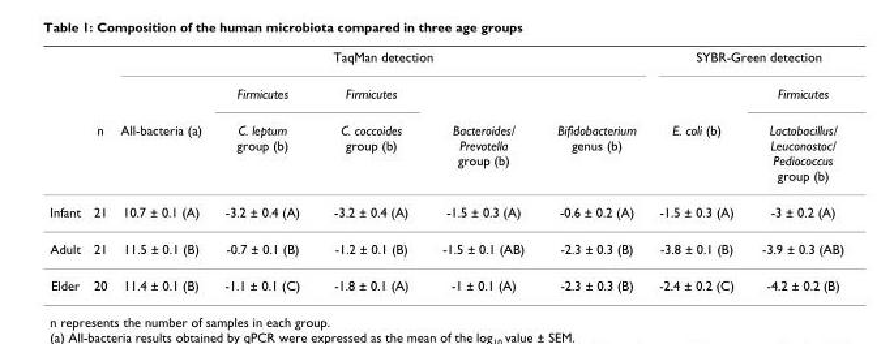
<table><thead><tr><td rowspan="3"></td><td rowspan="3">n</td><td colspan="5">TaqMan detection</td><td colspan="2">SYBR-Green detection</td></tr><tr><td rowspan="2">All-bacteria (a)</td><td rowspan="2">Firmicutes C. leptum group (b)</td><td rowspan="2">Firmicutes C. coccoides group (b)</td><td rowspan="2">Bacteroides/ Prevotella group (b)</td><td rowspan="2">Bifidobacterium genus (b)</td><td rowspan="2">E. coli (b)</td><td rowspan="2">Firmicutes Lactobacillus/ Leuconostoc/ Pediococcus group (b)</td></tr><tr></tr></thead><tbody><tr><td>Infant</td><td>21</td><td>10.7 ± 0.1 (A)</td><td>-3.2 ± 0.4 (A)</td><td>-3.2 ± 0.4 (A)</td><td>-1.5 ± 0.3 (A)</td><td>-0.6 ± 0.2 (A)</td><td>-1.5 ± 0.3 (A)</td><td>-3 ± 0.2 (A)</td></tr><tr><td>Adult</td><td>21</td><td>11.5 ± 0.1 (B)</td><td>-0.7 ± 0.1 (B)</td><td>-1.2 ± 0.1 (B)</td><td>-1.5 ± 0.1 (AB)</td><td>-2.3 ± 0.3 (B)</td><td>-3.8 ± 0.1 (B)</td><td>-3.9 ± 0.3 (AB)</td></tr><tr><td>Elder</td><td>20</td><td>11.4 ± 0.1 (B)</td><td>-1.1 ± 0.1 (C)</td><td>-1.8 ± 0.1 (A)</td><td>-1 ± 0.1 (A)</td><td>-2.3 ± 0.3 (B)</td><td>-2.4 ± 0.2 (C)</td><td>-4.2 ± 0.2 (B)</td></tr></tbody></table>